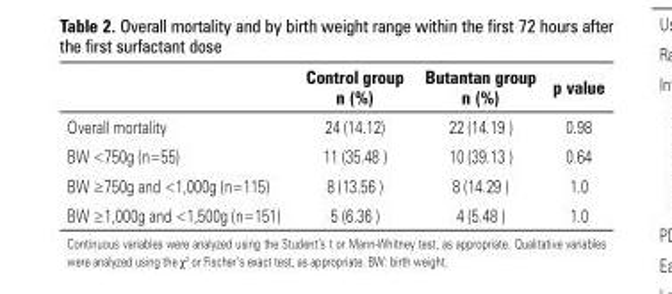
<table><thead><tr><td></td><td>Control group n (%)</td><td>Butantan group n (%)</td><td>p value</td></tr></thead><tbody><tr><td>Overall mortality</td><td>24 (14.12)</td><td>22 (14.19 )</td><td>0.98</td></tr><tr><td>BW &lt;750g (n=55)</td><td>11 (35.48 )</td><td>10 (39.13 )</td><td>0.64</td></tr><tr><td>BW ≥750g and &lt;1,000g (n=115)</td><td>8 (13.56 )</td><td>8 (14.29 )</td><td>1.0</td></tr><tr><td>BW ≥1,000g and &lt;1,500g (n=151)</td><td>5 (6.36 )</td><td>4 (5.48 )</td><td>1.0</td></tr></tbody></table>